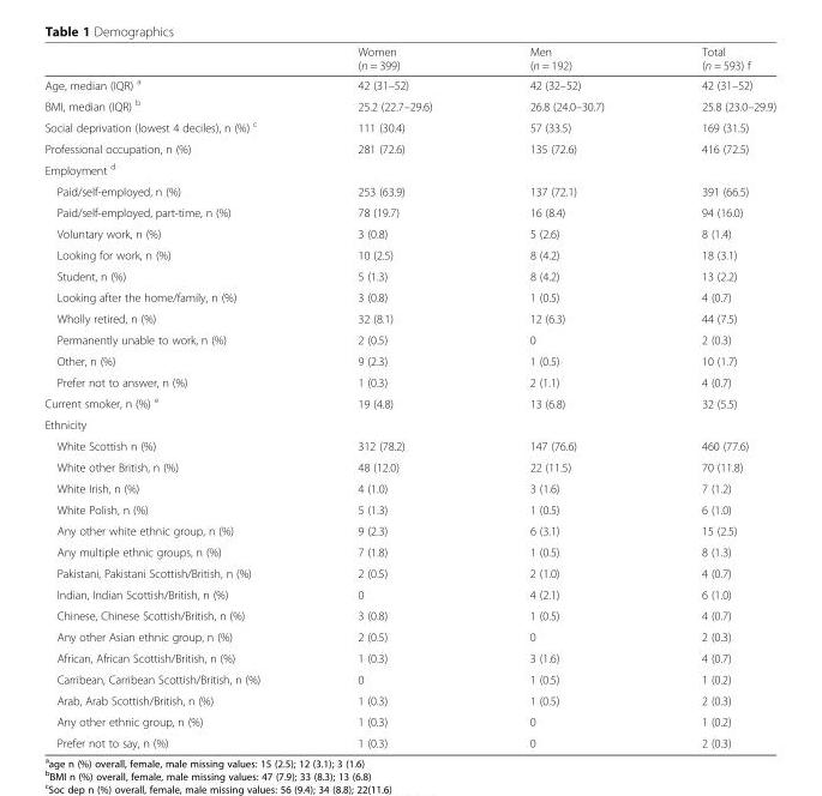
<table><thead><tr><td></td><td>Women (n = 399)</td><td>Men (n = 192)</td><td>Total (n = 593) f</td></tr></thead><tbody><tr><td>Age, median (IQR) <sup>a</sup></td><td>42 (31–52)</td><td>42 (32–52)</td><td>42 (31–52)</td></tr><tr><td>BMI, median (IQR) <sup>b</sup></td><td>25.2 (22.7–29.6)</td><td>26.8 (24.0–30.7)</td><td>25.8 (23.0–29.9)</td></tr><tr><td>Social deprivation (lowest 4 deciles), n (%) <sup>c</sup></td><td>111 (30.4)</td><td>57 (33.5)</td><td>169 (31.5)</td></tr><tr><td>Professional occupation, n (%)</td><td>281 (72.6)</td><td>135 (72.6)</td><td>416 (72.5)</td></tr><tr><td colspan="4">Employment <sup>d</sup></td></tr><tr><td>Paid/self-employed, n (%)</td><td>253 (63.9)</td><td>137 (72.1)</td><td>391 (66.5)</td></tr><tr><td>Paid/self-employed, part-time, n (%)</td><td>78 (19.7)</td><td>16 (8.4)</td><td>94 (16.0)</td></tr><tr><td>Voluntary work, n (%)</td><td>3 (0.8)</td><td>5 (2.6)</td><td>8 (1.4)</td></tr><tr><td>Looking for work, n (%)</td><td>10 (2.5)</td><td>8 (4.2)</td><td>18 (3.1)</td></tr><tr><td>Student, n (%)</td><td>5 (1.3)</td><td>8 (4.2)</td><td>13 (2.2)</td></tr><tr><td>Looking after the home/family, n (%)</td><td>3 (0.8)</td><td>1 (0.5)</td><td>4 (0.7)</td></tr><tr><td>Wholly retired, n (%)</td><td>32 (8.1)</td><td>12 (6.3)</td><td>44 (7.5)</td></tr><tr><td>Permanently unable to work, n (%)</td><td>2 (0.5)</td><td>0</td><td>2 (0.3)</td></tr><tr><td>Other, n (%)</td><td>9 (2.3)</td><td>1 (0.5)</td><td>10 (1.7)</td></tr><tr><td>Prefer not to answer, n (%)</td><td>1 (0.3)</td><td>2 (1.1)</td><td>4 (0.7)</td></tr><tr><td>Current smoker, n (%) <sup>e</sup></td><td>19 (4.8)</td><td>13 (6.8)</td><td>32 (5.5)</td></tr><tr><td colspan="4">Ethnicity</td></tr><tr><td>White Scottish n (%)</td><td>312 (78.2)</td><td>147 (76.6)</td><td>460 (77.6)</td></tr><tr><td>White other British, n (%)</td><td>48 (12.0)</td><td>22 (11.5)</td><td>70 (11.8)</td></tr><tr><td>White Irish, n (%)</td><td>4 (1.0)</td><td>3 (1.6)</td><td>7 (1.2)</td></tr><tr><td>White Polish, n (%)</td><td>5 (1.3)</td><td>1 (0.5)</td><td>6 (1.0)</td></tr><tr><td>Any other white ethnic group, n (%)</td><td>9 (2.3)</td><td>6 (3.1)</td><td>15 (2.5)</td></tr><tr><td>Any multiple ethnic groups, n (%)</td><td>7 (1.8)</td><td>1 (0.5)</td><td>8 (1.3)</td></tr><tr><td>Pakistani, Pakistani Scottish/British, n (%)</td><td>2 (0.5)</td><td>2 (1.0)</td><td>4 (0.7)</td></tr><tr><td>Indian, Indian Scottish/British, n (%)</td><td>0</td><td>4 (2.1)</td><td>6 (1.0)</td></tr><tr><td>Chinese, Chinese Scottish/British, n (%)</td><td>3 (0.8)</td><td>1 (0.5)</td><td>4 (0.7)</td></tr><tr><td>Any other Asian ethnic group, n (%)</td><td>2 (0.5)</td><td>0</td><td>2 (0.3)</td></tr><tr><td>African, African Scottish/British, n (%)</td><td>1 (0.3)</td><td>3 (1.6)</td><td>4 (0.7)</td></tr><tr><td>Carribean, Carribean Scottish/British, n (%)</td><td>0</td><td>1 (0.5)</td><td>1 (0.2)</td></tr><tr><td>Arab, Arab Scottish/British, n (%)</td><td>1 (0.3)</td><td>1 (0.5)</td><td>2 (0.3)</td></tr><tr><td>Any other ethnic group, n (%)</td><td>1 (0.3)</td><td>0</td><td>1 (0.2)</td></tr><tr><td>Prefer not to say, n (%)</td><td>1 (0.3)</td><td>0</td><td>2 (0.3)</td></tr></tbody></table>